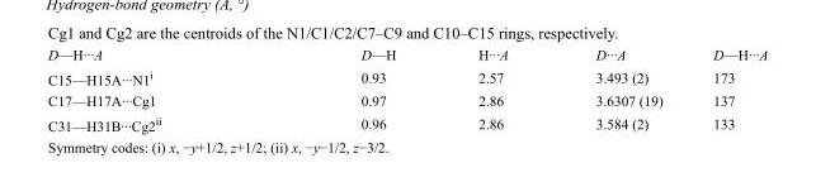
<table><tbody><tr><td>D—H···A</td><td>D—H</td><td>H···A</td><td>D···A</td><td>D—H···A</td></tr><tr><td>C15—H15A···N1<sup>i</sup></td><td>0.93</td><td>2.57</td><td>3.493 (2)</td><td>173</td></tr><tr><td>C17—H17A···Cg1</td><td>0.97</td><td>2.86</td><td>3.6307 (19)</td><td>137</td></tr><tr><td>C31—H31B···Cg2<sup>ii</sup></td><td>0.96</td><td>2.86</td><td>3.584 (2)</td><td>133</td></tr></tbody></table>